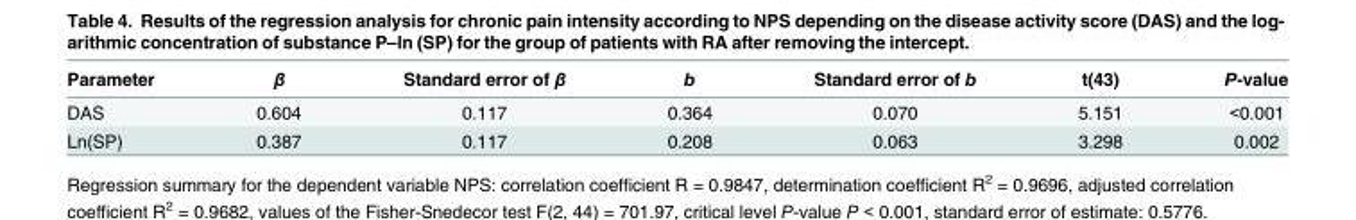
<table><thead><tr><td>Parameter</td><td>β</td><td>Standard error of β</td><td>b</td><td>Standard error of b</td><td>t(43)</td><td>P-value</td></tr></thead><tbody><tr><td>DAS</td><td>0.604</td><td>0.117</td><td>0.364</td><td>0.070</td><td>5.151</td><td>&lt;0.001</td></tr><tr><td>Ln(SP)</td><td>0.387</td><td>0.117</td><td>0.208</td><td>0.063</td><td>3.298</td><td>0.002</td></tr></tbody></table>